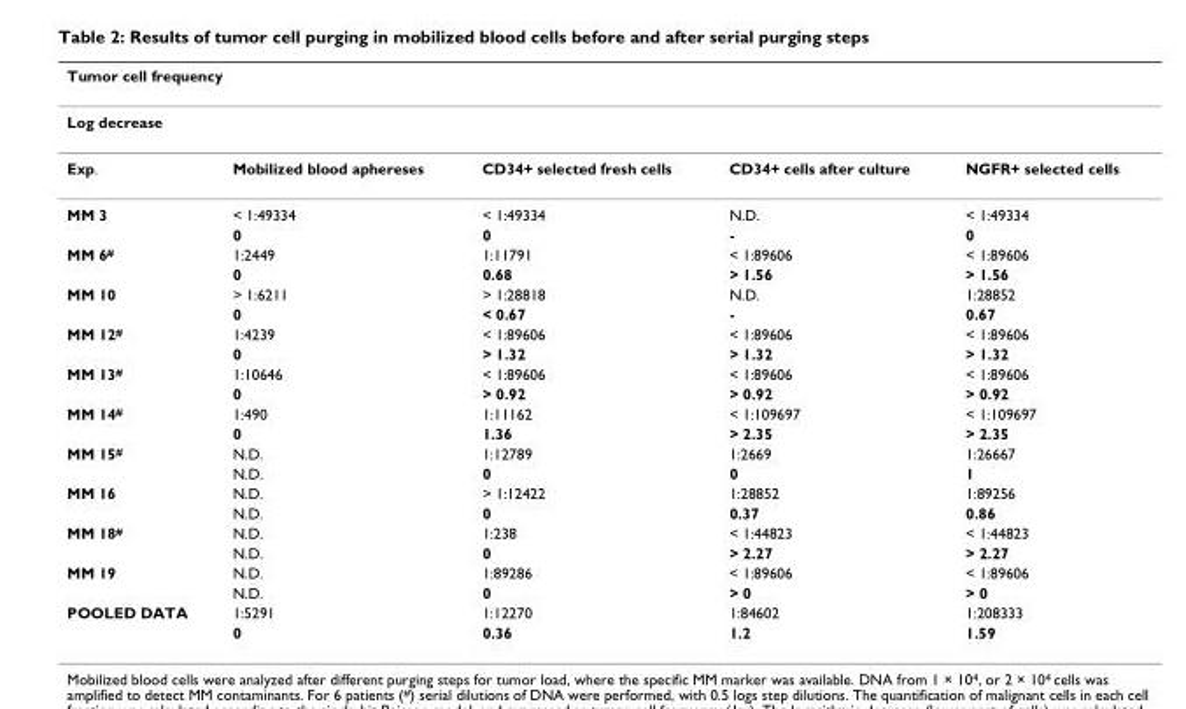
<table><thead><tr><td rowspan="2" colspan="5">Tumor cell frequency Log decrease</td></tr><tr></tr><tr><td>Exp.</td><td>Mobilized blood aphereses</td><td>CD34+ selected fresh cells</td><td>CD34+ cells after culture</td><td>NGFR+ selected cells</td></tr></thead><tbody><tr><td rowspan="2">MM 3</td><td>&lt; 1:49334</td><td>&lt; 1:49334</td><td>N.D.</td><td>&lt; 1:49334</td></tr><tr><td>0</td><td>0</td><td>-</td><td>0</td></tr><tr><td rowspan="2">MM 6<sup>#</sup></td><td>1:2449</td><td>1:11791</td><td>&lt; 1:89606</td><td>&lt; 1:89606</td></tr><tr><td>0</td><td>0.68</td><td>&gt; 1.56</td><td>&gt; 1.56</td></tr><tr><td rowspan="2">MM 10</td><td>&gt; 1:6211</td><td>&gt; 1:28818</td><td>N.D.</td><td>1:28852</td></tr><tr><td>0</td><td>&lt; 0.67</td><td>-</td><td>0.67</td></tr><tr><td rowspan="2">MM 12<sup>#</sup></td><td>1:4239</td><td>&lt; 1:89606</td><td>&lt; 1:89606</td><td>&lt; 1:89606</td></tr><tr><td>0</td><td>&gt; 1.32</td><td>&gt; 1.32</td><td>&gt; 1.32</td></tr><tr><td rowspan="2">MM 13<sup>#</sup></td><td>1:10646</td><td>&lt; 1:89606</td><td>&lt; 1:89606</td><td>&lt; 1:89606</td></tr><tr><td>0</td><td>&gt; 0.92</td><td>&gt; 0.92</td><td>&gt; 0.92</td></tr><tr><td rowspan="2">MM 14<sup>#</sup></td><td>1:490</td><td>1:11162</td><td>&lt; 1:109697</td><td>&lt; 1:109697</td></tr><tr><td>0</td><td>1.36</td><td>&gt; 2.35</td><td>&gt; 2.35</td></tr><tr><td rowspan="2">MM 15<sup>#</sup></td><td>N.D.</td><td>1:12789</td><td>1:2669</td><td>1:26667</td></tr><tr><td>N.D.</td><td>0</td><td>0</td><td>1</td></tr><tr><td rowspan="2">MM 16</td><td>N.D.</td><td>&gt; 1:12422</td><td>1:28852</td><td>1:89256</td></tr><tr><td>N.D.</td><td>0</td><td>0.37</td><td>0.86</td></tr><tr><td rowspan="2">MM 18<sup>#</sup></td><td>N.D.</td><td>1:238</td><td>&lt; 1:44823</td><td>&lt; 1:44823</td></tr><tr><td>N.D.</td><td>0</td><td>&gt; 2.27</td><td>&gt; 2.27</td></tr><tr><td rowspan="2">MM 19</td><td>N.D.</td><td>1:89286</td><td>&lt; 1:89606</td><td>&lt; 1:89606</td></tr><tr><td>N.D.</td><td>0</td><td>&gt; 0</td><td>&gt; 0</td></tr><tr><td rowspan="2">POOLED DATA</td><td>1:5291</td><td>1:12270</td><td>1:84602</td><td>1:208333</td></tr><tr><td>0</td><td>0.36</td><td>1.2</td><td>1.59</td></tr></tbody></table>